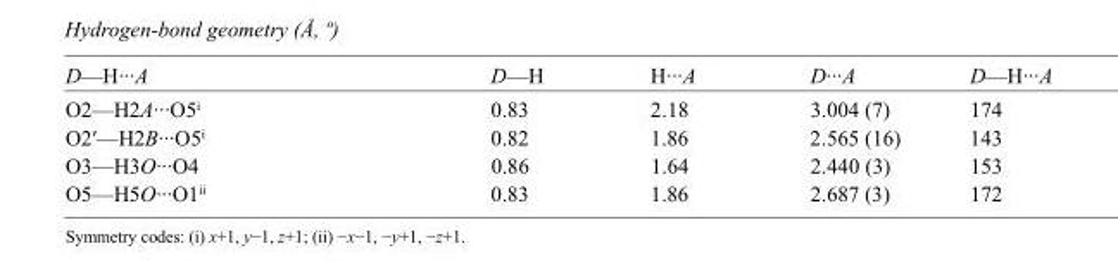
<table><tbody><tr><td>D—H···A</td><td>D—H</td><td>H···A</td><td>D···A</td><td>D—H···A</td></tr><tr><td>O2—H2A···O5<sup>i</sup></td><td>0.83</td><td>2.18</td><td>3.004 (7)</td><td>174</td></tr><tr><td>O2′—H2B···O5<sup>i</sup></td><td>0.82</td><td>1.86</td><td>2.565 (16)</td><td>143</td></tr><tr><td>O3—H3O···O4</td><td>0.86</td><td>1.64</td><td>2.440 (3)</td><td>153</td></tr><tr><td>O5—H5O···O1<sup>ii</sup></td><td>0.83</td><td>1.86</td><td>2.687 (3)</td><td>172</td></tr></tbody></table>